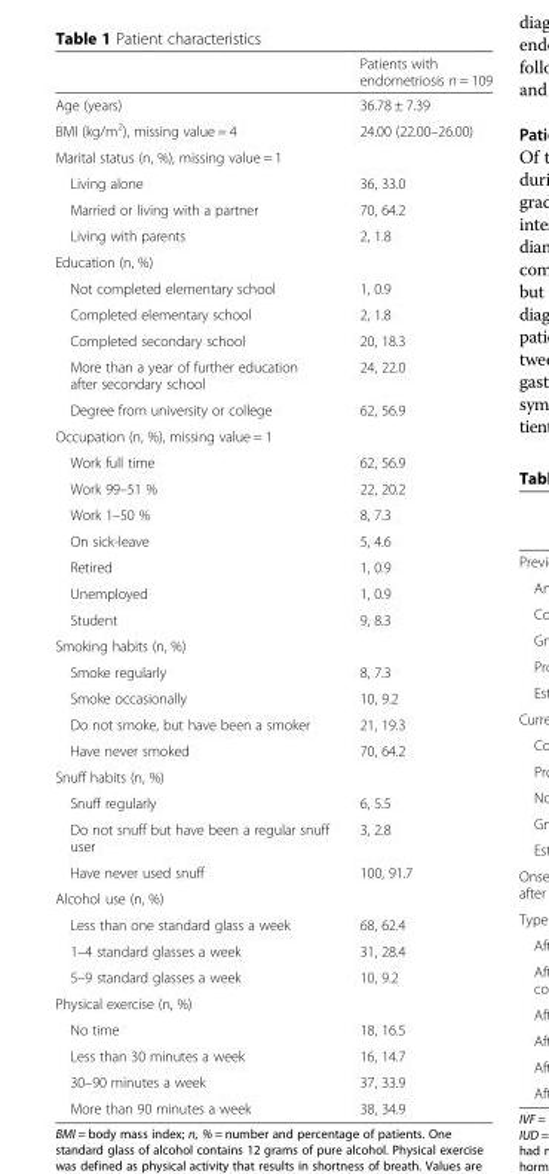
<table><thead><tr><td></td><td>Patients with endometriosis n = 109</td></tr></thead><tbody><tr><td>Age (years)</td><td>36.78 ± 7.39</td></tr><tr><td>BMI (kg/m<sup>2</sup>), missing value = 4</td><td>24.00 (22.00–26.00)</td></tr><tr><td colspan="2">Marital status (n, %), missing value = 1</td></tr><tr><td>Living alone</td><td>36, 33.0</td></tr><tr><td>Married or living with a partner</td><td>70, 64.2</td></tr><tr><td>Living with parents</td><td>2, 1.8</td></tr><tr><td colspan="2">Education (n, %)</td></tr><tr><td>Not completed elementary school</td><td>1, 0.9</td></tr><tr><td>Completed elementary school</td><td>2, 1.8</td></tr><tr><td>Completed secondary school</td><td>20, 18.3</td></tr><tr><td>More than a year of further education after secondary school</td><td>24, 22.0</td></tr><tr><td>Degree from university or college</td><td>62, 56.9</td></tr><tr><td colspan="2">Occupation (n, %), missing value = 1</td></tr><tr><td>Work full time</td><td>62, 56.9</td></tr><tr><td>Work 99–51 %</td><td>22, 20.2</td></tr><tr><td>Work 1–50 %</td><td>8, 7.3</td></tr><tr><td>On sick-leave</td><td>5, 4.6</td></tr><tr><td>Retired</td><td>1, 0.9</td></tr><tr><td>Unemployed</td><td>1, 0.9</td></tr><tr><td>Student</td><td>9, 8.3</td></tr><tr><td colspan="2">Smoking habits (n, %)</td></tr><tr><td>Smoke regularly</td><td>8, 7.3</td></tr><tr><td>Smoke occasionally</td><td>10, 9.2</td></tr><tr><td>Do not smoke, but have been a smoker</td><td>21, 19.3</td></tr><tr><td>Have never smoked</td><td>70, 64.2</td></tr><tr><td colspan="2">Snuff habits (n, %)</td></tr><tr><td>Snuff regularly</td><td>6, 5.5</td></tr><tr><td>Do not snuff but have been a regular snuff user</td><td>3, 2.8</td></tr><tr><td>Have never used snuff</td><td>100, 91.7</td></tr><tr><td colspan="2">Alcohol use (n, %)</td></tr><tr><td>Less than one standard glass a week</td><td>68, 62.4</td></tr><tr><td>1–4 standard glasses a week</td><td>31, 28.4</td></tr><tr><td>5–9 standard glasses a week</td><td>10, 9.2</td></tr><tr><td colspan="2">Physical exercise (n, %)</td></tr><tr><td>No time</td><td>18, 16.5</td></tr><tr><td>Less than 30 minutes a week</td><td>16, 14.7</td></tr><tr><td>30–90 minutes a week</td><td>37, 33.9</td></tr><tr><td>More than 90 minutes a week</td><td>38, 34.9</td></tr></tbody></table>